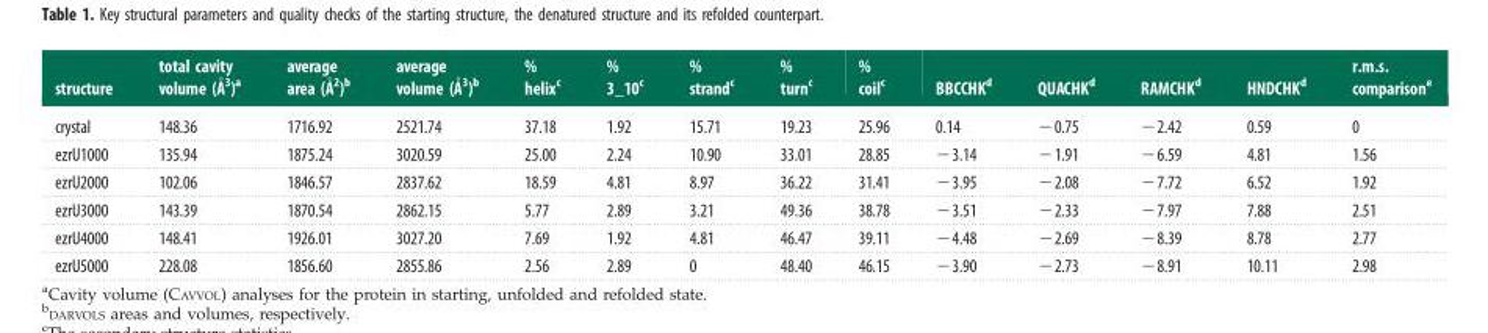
<table><thead><tr><td>structure</td><td>total cavity volume (A˚3)a</td><td>average area (A˚2)b</td><td>average volume (A˚3)b</td><td>% helix<sup>c</sup></td><td>% 3_10<sup>c</sup></td><td>% strand<sup>c</sup></td><td>% turn<sup>c</sup></td><td>% coil<sup>c</sup></td><td>BBCCHK<sup>d</sup></td><td>QUACHK<sup>d</sup></td><td>RAMCHK<sup>d</sup></td><td>HNDCHK<sup>d</sup></td><td>r.m.s. comparison<sup>e</sup></td></tr></thead><tbody><tr><td>crystal</td><td>148.36</td><td>1716.92</td><td>2521.74</td><td>37.18</td><td>1.92</td><td>15.71</td><td>19.23</td><td>25.96</td><td>0.14</td><td>−0.75</td><td>−2.42</td><td>0.59</td><td>0</td></tr><tr><td>ezrU1000</td><td>135.94</td><td>1875.24</td><td>3020.59</td><td>25.00</td><td>2.24</td><td>10.90</td><td>33.01</td><td>28.85</td><td>−3.14</td><td>−1.91</td><td>−6.59</td><td>4.81</td><td>1.56</td></tr><tr><td>ezrU2000</td><td>102.06</td><td>1846.57</td><td>2837.62</td><td>18.59</td><td>4.81</td><td>8.97</td><td>36.22</td><td>31.41</td><td>−3.95</td><td>−2.08</td><td>−7.72</td><td>6.52</td><td>1.92</td></tr><tr><td>ezrU3000</td><td>143.39</td><td>1870.54</td><td>2862.15</td><td>5.77</td><td>2.89</td><td>3.21</td><td>49.36</td><td>38.78</td><td>−3.51</td><td>−2.33</td><td>−7.97</td><td>7.88</td><td>2.51</td></tr><tr><td>ezrU4000</td><td>148.41</td><td>1926.01</td><td>3027.20</td><td>7.69</td><td>1.92</td><td>4.81</td><td>46.47</td><td>39.11</td><td>−4.48</td><td>−2.69</td><td>−8.39</td><td>8.78</td><td>2.77</td></tr><tr><td>ezrU5000</td><td>228.08</td><td>1856.60</td><td>2855.86</td><td>2.56</td><td>2.89</td><td>0</td><td>48.40</td><td>46.15</td><td>−3.90</td><td>−2.73</td><td>−8.91</td><td>10.11</td><td>2.98</td></tr></tbody></table>